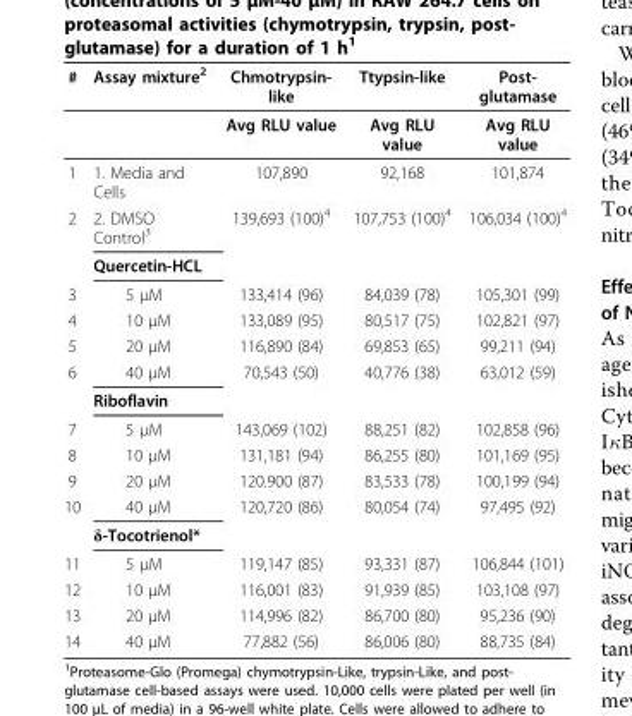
<table><thead><tr><td>#</td><td>Assay mixture<sup>2</sup></td><td>Chmotrypsin- like</td><td>Ttypsin-like</td><td>Post- glutamase</td></tr></thead><tbody><tr><td></td><td></td><td>Avg RLU value</td><td>Avg RLU value</td><td>Avg RLU value</td></tr><tr><td>1</td><td>1. Media and Cells</td><td>107,890</td><td>92,168</td><td>101,874</td></tr><tr><td rowspan="2">2</td><td>2. DMSO Control<sup>3</sup></td><td>139,693 (100)<sup>4</sup></td><td>107,753 (100)<sup>4</sup></td><td>106,034 (100)<sup>4</sup></td></tr><tr><td>Quercetin-HCL</td><td></td><td></td><td></td></tr><tr><td>3</td><td>5 μM</td><td>133,414 (96)</td><td>84,039 (78)</td><td>105,301 (99)</td></tr><tr><td>4</td><td>10 μM</td><td>133,089 (95)</td><td>80,517 (75)</td><td>102,821 (97)</td></tr><tr><td>5</td><td>20 μM</td><td>116,890 (84)</td><td>69,853 (65)</td><td>99,211 (94)</td></tr><tr><td rowspan="2">6</td><td>40 μM</td><td>70,543 (50)</td><td>40,776 (38)</td><td>63,012 (59)</td></tr><tr><td>Riboflavin</td><td></td><td></td><td></td></tr><tr><td>7</td><td>5 μM</td><td>143,069 (102)</td><td>88,251 (82)</td><td>102,858 (96)</td></tr><tr><td>8</td><td>10 μM</td><td>131,181 (94)</td><td>86,255 (80)</td><td>101,169 (95)</td></tr><tr><td>9</td><td>20 μM</td><td>120.900 (87)</td><td>83,533 (78)</td><td>100,199 (94)</td></tr><tr><td rowspan="2">10</td><td>40 μM</td><td>120,720 (86)</td><td>80,054 (74)</td><td>97,495 (92)</td></tr><tr><td>δ-Tocotrienol*</td><td></td><td></td><td></td></tr><tr><td>11</td><td>5 μM</td><td>119,147 (85)</td><td>93,331 (87)</td><td>106,844 (101)</td></tr><tr><td>12</td><td>10 μM</td><td>116,001 (83)</td><td>91,939 (85)</td><td>103,108 (97)</td></tr><tr><td>13</td><td>20 μM</td><td>114,996 (82)</td><td>86,700 (80)</td><td>95,236 (90)</td></tr><tr><td>14</td><td>40 μM</td><td>77,882 (56)</td><td>86,006 (80)</td><td>88,735 (84)</td></tr></tbody></table>